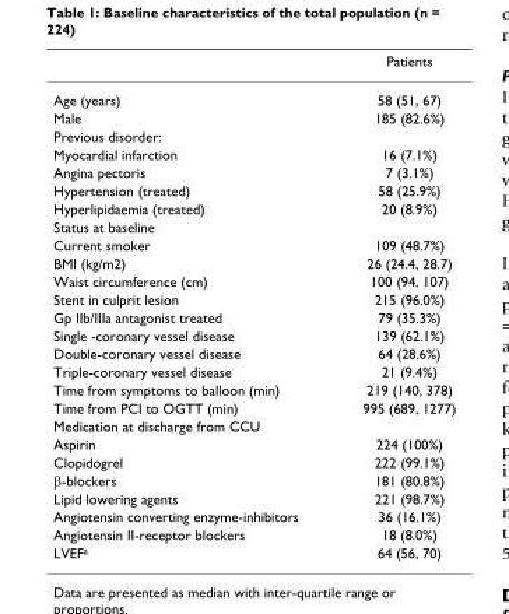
<table><thead><tr><td></td><td>Patients</td></tr></thead><tbody><tr><td>Age (years)</td><td>58 (51, 67)</td></tr><tr><td>Male</td><td>185 (82.6%)</td></tr><tr><td colspan="2">Previous disorder:</td></tr><tr><td>Myocardial infarction</td><td>16 (7.1%)</td></tr><tr><td>Angina pectoris</td><td>7 (3.1%)</td></tr><tr><td>Hypertension (treated)</td><td>58 (25.9%)</td></tr><tr><td>Hyperlipidaemia (treated)</td><td>20 (8.9%)</td></tr><tr><td colspan="2">Status at baseline</td></tr><tr><td>Current smoker</td><td>109 (48.7%)</td></tr><tr><td>BMI (kg/m2)</td><td>26 (24.4, 28.7)</td></tr><tr><td>Waist circumference (cm)</td><td>100 (94, 107)</td></tr><tr><td>Stent in culprit lesion</td><td>215 (96.0%)</td></tr><tr><td>Gp IIb/IIIa antagonist treated</td><td>79 (35.3%)</td></tr><tr><td>Single -coronary vessel disease</td><td>139 (62.1%)</td></tr><tr><td>Double-coronary vessel disease</td><td>64 (28.6%)</td></tr><tr><td>Triple-coronary vessel disease</td><td>21 (9.4%)</td></tr><tr><td>Time from symptoms to balloon (min)</td><td>219 (140, 378)</td></tr><tr><td>Time from PCI to OGTT (min)</td><td>995 (689, 1277)</td></tr><tr><td colspan="2">Medication at discharge from CCU</td></tr><tr><td>Aspirin</td><td>224 (100%)</td></tr><tr><td>Clopidogrel</td><td>222 (99.1%)</td></tr><tr><td>β-blockers</td><td>181 (80.8%)</td></tr><tr><td>Lipid lowering agents</td><td>221 (98.7%)</td></tr><tr><td>Angiotensin converting enzyme-inhibitors</td><td>36 (16.1%)</td></tr><tr><td>Angiotensin II-receptor blockers</td><td>18 (8.0%)</td></tr><tr><td>LVEF<sup>a</sup></td><td>64 (56, 70)</td></tr></tbody></table>